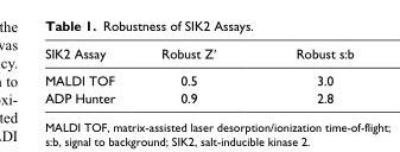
<table><thead><tr><td>SIK2 Assay</td><td>Robust Z′</td><td>Robust s:b</td></tr></thead><tbody><tr><td>MALDI TOF</td><td>0.5</td><td>3.0</td></tr><tr><td>ADP Hunter</td><td>0.9</td><td>2.8</td></tr></tbody></table>